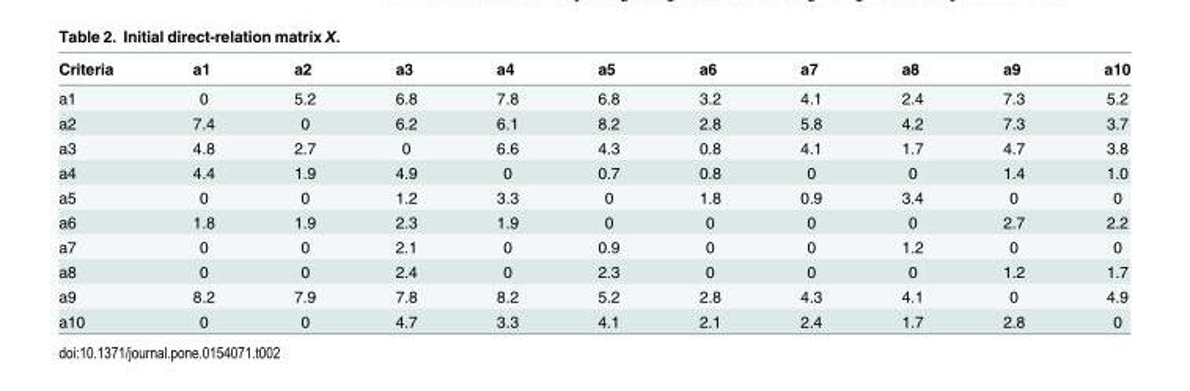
<table><thead><tr><td>Criteria</td><td>a1</td><td>a2</td><td>a3</td><td>a4</td><td>a5</td><td>a6</td><td>a7</td><td>a8</td><td>a9</td><td>a10</td></tr></thead><tbody><tr><td>a1</td><td>0</td><td>5.2</td><td>6.8</td><td>7.8</td><td>6.8</td><td>3.2</td><td>4.1</td><td>2.4</td><td>7.3</td><td>5.2</td></tr><tr><td>a2</td><td>7.4</td><td>0</td><td>6.2</td><td>6.1</td><td>8.2</td><td>2.8</td><td>5.8</td><td>4.2</td><td>7.3</td><td>3.7</td></tr><tr><td>a3</td><td>4.8</td><td>2.7</td><td>0</td><td>6.6</td><td>4.3</td><td>0.8</td><td>4.1</td><td>1.7</td><td>4.7</td><td>3.8</td></tr><tr><td>a4</td><td>4.4</td><td>1.9</td><td>4.9</td><td>0</td><td>0.7</td><td>0.8</td><td>0</td><td>0</td><td>1.4</td><td>1.0</td></tr><tr><td>a5</td><td>0</td><td>0</td><td>1.2</td><td>3.3</td><td>0</td><td>1.8</td><td>0.9</td><td>3.4</td><td>0</td><td>0</td></tr><tr><td>a6</td><td>1.8</td><td>1.9</td><td>2.3</td><td>1.9</td><td>0</td><td>0</td><td>0</td><td>0</td><td>2.7</td><td>2.2</td></tr><tr><td>a7</td><td>0</td><td>0</td><td>2.1</td><td>0</td><td>0.9</td><td>0</td><td>0</td><td>1.2</td><td>0</td><td>0</td></tr><tr><td>a8</td><td>0</td><td>0</td><td>2.4</td><td>0</td><td>2.3</td><td>0</td><td>0</td><td>0</td><td>1.2</td><td>1.7</td></tr><tr><td>a9</td><td>8.2</td><td>7.9</td><td>7.8</td><td>8.2</td><td>5.2</td><td>2.8</td><td>4.3</td><td>4.1</td><td>0</td><td>4.9</td></tr><tr><td>a10</td><td>0</td><td>0</td><td>4.7</td><td>3.3</td><td>4.1</td><td>2.1</td><td>2.4</td><td>1.7</td><td>2.8</td><td>0</td></tr></tbody></table>